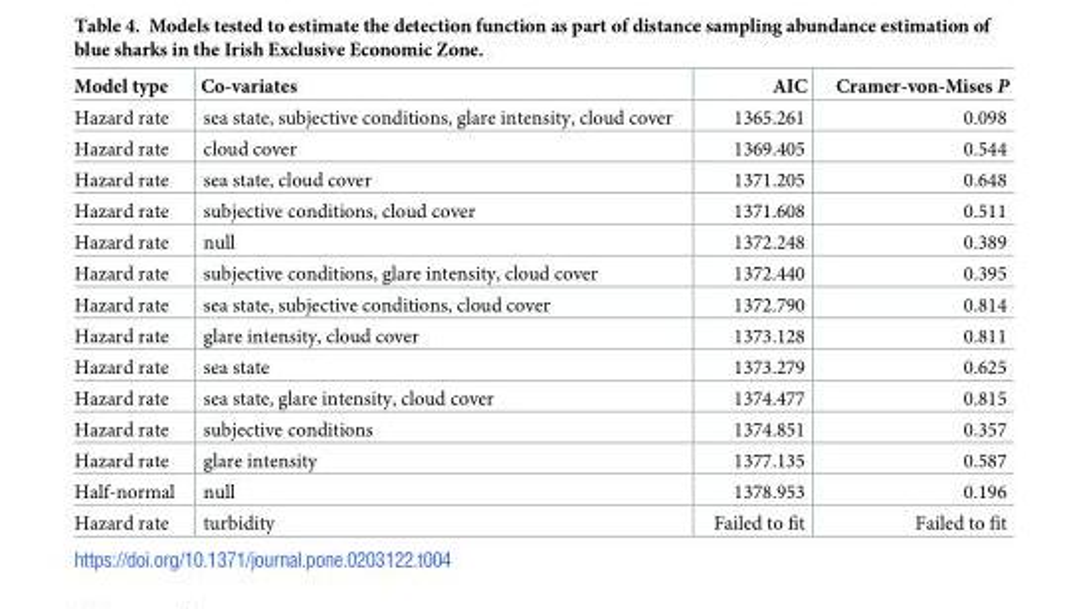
<table><thead><tr><td>Model type</td><td>Co-variates</td><td>AIC</td><td>Cramer-von-Mises P</td></tr></thead><tbody><tr><td>Hazard rate</td><td>sea state, subjective conditions, glare intensity, cloud cover</td><td>1365.261</td><td>0.098</td></tr><tr><td>Hazard rate</td><td>cloud cover</td><td>1369.405</td><td>0.544</td></tr><tr><td>Hazard rate</td><td>sea state, cloud cover</td><td>1371.205</td><td>0.648</td></tr><tr><td>Hazard rate</td><td>subjective conditions, cloud cover</td><td>1371.608</td><td>0.511</td></tr><tr><td>Hazard rate</td><td>null</td><td>1372.248</td><td>0.389</td></tr><tr><td>Hazard rate</td><td>subjective conditions, glare intensity, cloud cover</td><td>1372.440</td><td>0.395</td></tr><tr><td>Hazard rate</td><td>sea state, subjective conditions, cloud cover</td><td>1372.790</td><td>0.814</td></tr><tr><td>Hazard rate</td><td>glare intensity, cloud cover</td><td>1373.128</td><td>0.811</td></tr><tr><td>Hazard rate</td><td>sea state</td><td>1373.279</td><td>0.625</td></tr><tr><td>Hazard rate</td><td>sea state, glare intensity, cloud cover</td><td>1374.477</td><td>0.815</td></tr><tr><td>Hazard rate</td><td>subjective conditions</td><td>1374.851</td><td>0.357</td></tr><tr><td>Hazard rate</td><td>glare intensity</td><td>1377.135</td><td>0.587</td></tr><tr><td>Half-normal</td><td>null</td><td>1378.953</td><td>0.196</td></tr><tr><td>Hazard rate</td><td>turbidity</td><td>Failed to fit</td><td>Failed to fit</td></tr></tbody></table>